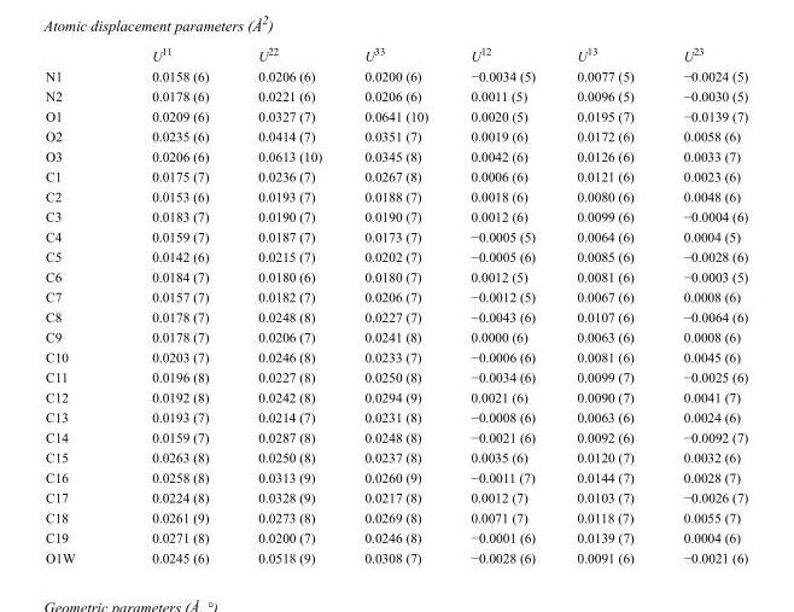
<table><thead><tr><td></td><td>U<sup>11</sup></td><td>U<sup>22</sup></td><td>U<sup>33</sup></td><td>U<sup>12</sup></td><td>U<sup>13</sup></td><td>U<sup>23</sup></td></tr></thead><tbody><tr><td>N1</td><td>0.0158 (6)</td><td>0.0206 (6)</td><td>0.0200 (6)</td><td>−0.0034 (5)</td><td>0.0077 (5)</td><td>−0.0024 (5)</td></tr><tr><td>N2</td><td>0.0178 (6)</td><td>0.0221 (6)</td><td>0.0206 (6)</td><td>0.0011 (5)</td><td>0.0096 (5)</td><td>−0.0030 (5)</td></tr><tr><td>O1</td><td>0.0209 (6)</td><td>0.0327 (7)</td><td>0.0641 (10)</td><td>0.0020 (5)</td><td>0.0195 (7)</td><td>−0.0139 (7)</td></tr><tr><td>O2</td><td>0.0235 (6)</td><td>0.0414 (7)</td><td>0.0351 (7)</td><td>0.0019 (6)</td><td>0.0172 (6)</td><td>0.0058 (6)</td></tr><tr><td>O3</td><td>0.0206 (6)</td><td>0.0613 (10)</td><td>0.0345 (8)</td><td>0.0042 (6)</td><td>0.0126 (6)</td><td>0.0033 (7)</td></tr><tr><td>C1</td><td>0.0175 (7)</td><td>0.0236 (7)</td><td>0.0267 (8)</td><td>0.0006 (6)</td><td>0.0121 (6)</td><td>0.0023 (6)</td></tr><tr><td>C2</td><td>0.0153 (6)</td><td>0.0193 (7)</td><td>0.0188 (7)</td><td>0.0018 (6)</td><td>0.0080 (6)</td><td>0.0048 (6)</td></tr><tr><td>C3</td><td>0.0183 (7)</td><td>0.0190 (7)</td><td>0.0190 (7)</td><td>0.0012 (6)</td><td>0.0099 (6)</td><td>−0.0004 (6)</td></tr><tr><td>C4</td><td>0.0159 (7)</td><td>0.0187 (7)</td><td>0.0173 (7)</td><td>−0.0005 (5)</td><td>0.0064 (6)</td><td>0.0004 (5)</td></tr><tr><td>C5</td><td>0.0142 (6)</td><td>0.0215 (7)</td><td>0.0202 (7)</td><td>−0.0005 (6)</td><td>0.0085 (6)</td><td>−0.0028 (6)</td></tr><tr><td>C6</td><td>0.0184 (7)</td><td>0.0180 (6)</td><td>0.0180 (7)</td><td>0.0012 (5)</td><td>0.0081 (6)</td><td>−0.0003 (5)</td></tr><tr><td>C7</td><td>0.0157 (7)</td><td>0.0182 (7)</td><td>0.0206 (7)</td><td>−0.0012 (5)</td><td>0.0067 (6)</td><td>0.0008 (6)</td></tr><tr><td>C8</td><td>0.0178 (7)</td><td>0.0248 (8)</td><td>0.0227 (7)</td><td>−0.0043 (6)</td><td>0.0107 (6)</td><td>−0.0064 (6)</td></tr><tr><td>C9</td><td>0.0178 (7)</td><td>0.0206 (7)</td><td>0.0241 (8)</td><td>0.0000 (6)</td><td>0.0063 (6)</td><td>0.0008 (6)</td></tr><tr><td>C10</td><td>0.0203 (7)</td><td>0.0246 (8)</td><td>0.0233 (7)</td><td>−0.0006 (6)</td><td>0.0081 (6)</td><td>0.0045 (6)</td></tr><tr><td>C11</td><td>0.0196 (8)</td><td>0.0227 (8)</td><td>0.0250 (8)</td><td>−0.0034 (6)</td><td>0.0099 (7)</td><td>−0.0025 (6)</td></tr><tr><td>C12</td><td>0.0192 (8)</td><td>0.0242 (8)</td><td>0.0294 (9)</td><td>0.0021 (6)</td><td>0.0090 (7)</td><td>0.0041 (7)</td></tr><tr><td>C13</td><td>0.0193 (7)</td><td>0.0214 (7)</td><td>0.0231 (8)</td><td>−0.0008 (6)</td><td>0.0063 (6)</td><td>0.0024 (6)</td></tr><tr><td>C14</td><td>0.0159 (7)</td><td>0.0287 (8)</td><td>0.0248 (8)</td><td>−0.0021 (6)</td><td>0.0092 (6)</td><td>−0.0092 (7)</td></tr><tr><td>C15</td><td>0.0263 (8)</td><td>0.0250 (8)</td><td>0.0237 (8)</td><td>0.0035 (6)</td><td>0.0120 (7)</td><td>0.0032 (6)</td></tr><tr><td>C16</td><td>0.0258 (8)</td><td>0.0313 (9)</td><td>0.0260 (9)</td><td>−0.0011 (7)</td><td>0.0144 (7)</td><td>0.0028 (7)</td></tr><tr><td>C17</td><td>0.0224 (8)</td><td>0.0328 (9)</td><td>0.0217 (8)</td><td>0.0012 (7)</td><td>0.0103 (7)</td><td>−0.0026 (7)</td></tr><tr><td>C18</td><td>0.0261 (9)</td><td>0.0273 (8)</td><td>0.0269 (8)</td><td>0.0071 (7)</td><td>0.0118 (7)</td><td>0.0055 (7)</td></tr><tr><td>C19</td><td>0.0271 (8)</td><td>0.0200 (7)</td><td>0.0246 (8)</td><td>−0.0001 (6)</td><td>0.0139 (7)</td><td>0.0004 (6)</td></tr><tr><td>O1W</td><td>0.0245 (6)</td><td>0.0518 (9)</td><td>0.0308 (7)</td><td>−0.0028 (6)</td><td>0.0091 (6)</td><td>−0.0021 (6)</td></tr></tbody></table>